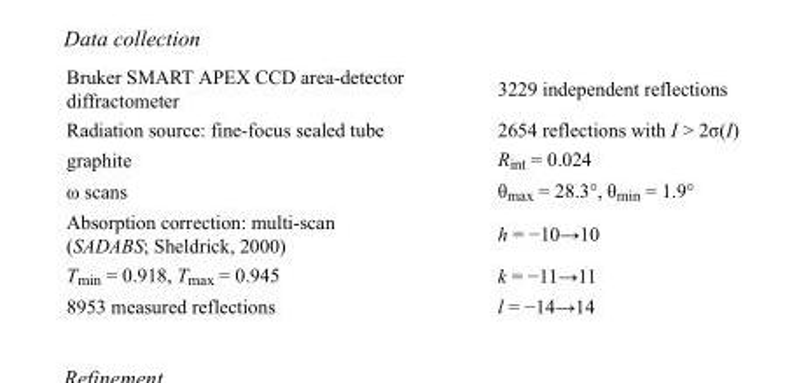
<table><tbody><tr><td>Bruker SMART APEX CCD area-detector diffractometer</td><td>3229 independent reflections</td></tr><tr><td>Radiation source: fine-focus sealed tube</td><td>2654 reflections with I &gt; 2σ(I)</td></tr><tr><td>graphite</td><td>R<sub>int</sub> = 0.024</td></tr><tr><td>ω scans</td><td>θ<sub>max</sub> = 28.3°, θ<sub>min</sub> = 1.9°</td></tr><tr><td>Absorption correction: multi-scan (SADABS; Sheldrick, 2000)</td><td>h = −10→10</td></tr><tr><td>T<sub>min</sub> = 0.918, T<sub>max</sub> = 0.945</td><td>k = −11→11</td></tr><tr><td>8953 measured reflections</td><td>l = −14→14</td></tr></tbody></table>